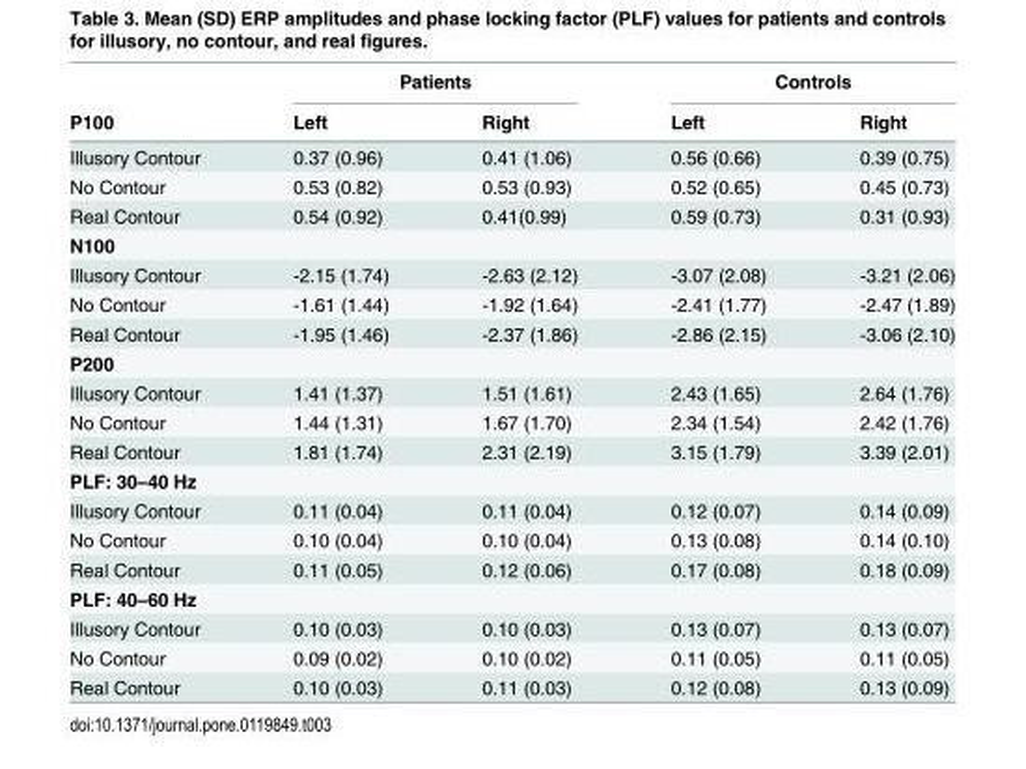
<table><thead><tr><td rowspan="2">P100</td><td colspan="2">Patients</td><td colspan="2">Controls</td></tr><tr><td>Left</td><td>Right</td><td>Left</td><td>Right</td></tr></thead><tbody><tr><td>Illusory Contour</td><td>0.37 (0.96)</td><td>0.41 (1.06)</td><td>0.56 (0.66)</td><td>0.39 (0.75)</td></tr><tr><td>No Contour</td><td>0.53 (0.82)</td><td>0.53 (0.93)</td><td>0.52 (0.65)</td><td>0.45 (0.73)</td></tr><tr><td>Real Contour</td><td>0.54 (0.92)</td><td>0.41(0.99)</td><td>0.59 (0.73)</td><td>0.31 (0.93)</td></tr><tr><td colspan="5">N100</td></tr><tr><td>Illusory Contour</td><td>-2.15 (1.74)</td><td>-2.63 (2.12)</td><td>-3.07 (2.08)</td><td>-3.21 (2.06)</td></tr><tr><td>No Contour</td><td>-1.61 (1.44)</td><td>-1.92 (1.64)</td><td>-2.41 (1.77)</td><td>-2.47 (1.89)</td></tr><tr><td>Real Contour</td><td>-1.95 (1.46)</td><td>-2.37 (1.86)</td><td>-2.86 (2.15)</td><td>-3.06 (2.10)</td></tr><tr><td colspan="5">P200</td></tr><tr><td>Illusory Contour</td><td>1.41 (1.37)</td><td>1.51 (1.61)</td><td>2.43 (1.65)</td><td>2.64 (1.76)</td></tr><tr><td>No Contour</td><td>1.44 (1.31)</td><td>1.67 (1.70)</td><td>2.34 (1.54)</td><td>2.42 (1.76)</td></tr><tr><td>Real Contour</td><td>1.81 (1.74)</td><td>2.31 (2.19)</td><td>3.15 (1.79)</td><td>3.39 (2.01)</td></tr><tr><td colspan="5">PLF: 30–40 Hz</td></tr><tr><td>Illusory Contour</td><td>0.11 (0.04)</td><td>0.11 (0.04)</td><td>0.12 (0.07)</td><td>0.14 (0.09)</td></tr><tr><td>No Contour</td><td>0.10 (0.04)</td><td>0.10 (0.04)</td><td>0.13 (0.08)</td><td>0.14 (0.10)</td></tr><tr><td>Real Contour</td><td>0.11 (0.05)</td><td>0.12 (0.06)</td><td>0.17 (0.08)</td><td>0.18 (0.09)</td></tr><tr><td colspan="5">PLF: 40–60 Hz</td></tr><tr><td>Illusory Contour</td><td>0.10 (0.03)</td><td>0.10 (0.03)</td><td>0.13 (0.07)</td><td>0.13 (0.07)</td></tr><tr><td>No Contour</td><td>0.09 (0.02)</td><td>0.10 (0.02)</td><td>0.11 (0.05)</td><td>0.11 (0.05)</td></tr><tr><td>Real Contour</td><td>0.10 (0.03)</td><td>0.11 (0.03)</td><td>0.12 (0.08)</td><td>0.13 (0.09)</td></tr></tbody></table>